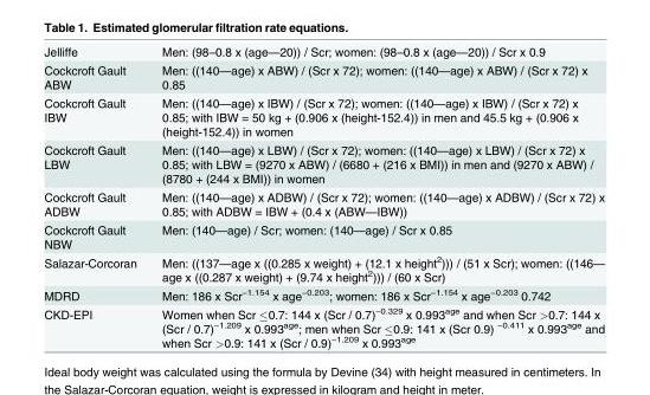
<table><tbody><tr><td>Jelliffe</td><td>Men: (98–0.8 x (age—20)) / Scr; women: (98–0.8 x (age—20)) / Scr x 0.9</td></tr><tr><td>Cockcroft Gault ABW</td><td>Men: ((140—age) x ABW) / (Scr x 72); women: ((140—age) x ABW) / (Scr x 72) x 0.85</td></tr><tr><td>Cockcroft Gault IBW</td><td>Men: ((140—age) x IBW) / (Scr x 72); women: ((140—age) x IBW) / (Scr x 72) x 0.85; with IBW = 50 kg + (0.906 x (height-152.4)) in men and 45.5 kg + (0.906 x (height-152.4)) in women</td></tr><tr><td>Cockcroft Gault LBW</td><td>Men: ((140—age) x LBW) / (Scr x 72); women: ((140—age) x LBW) / (Scr x 72) x 0.85; with LBW = (9270 x ABW) / (6680 + (216 x BMI)) in men and (9270 x ABW) / (8780 + (244 x BMI)) in women</td></tr><tr><td>Cockcroft Gault ADBW</td><td>Men: ((140—age) x ADBW) / (Scr x 72); women: ((140—age) x ADBW) / (Scr x 72) x 0.85; with ADBW = IBW + (0.4 x (ABW—IBW))</td></tr><tr><td>Cockcroft Gault NBW</td><td>Men: (140—age) / Scr; women: (140—age) / Scr x 0.85</td></tr><tr><td>Salazar-Corcoran</td><td>Men: ((137—age x ((0.285 x weight) + (12.1 x height<sup>2</sup>))) / (51 x Scr); women: ((146— age x ((0.287 x weight) + (9.74 x height<sup>2</sup>))) / (60 x Scr)</td></tr><tr><td>MDRD</td><td>Men: 186 x Scr<sup>−1.154</sup> x age<sup>−0.203</sup>; women: 186 x Scr<sup>−1.154</sup> x age<sup>−0.203</sup> 0.742</td></tr><tr><td>CKD-EPI</td><td>Women when Scr ≤0.7: 144 x (Scr / 0.7)<sup>−0.329</sup> x 0.993<sup>age</sup> and when Scr &gt;0.7: 144 x (Scr / 0.7)<sup>−1.209</sup> x 0.993<sup>age</sup>; men when Scr ≤0.9: 141 x (Scr 0.9) <sup>−0.411</sup> x 0.993<sup>age</sup> and when Scr &gt;0.9: 141 x (Scr / 0.9)<sup>−1.209</sup> x 0.993<sup>age</sup></td></tr></tbody></table>